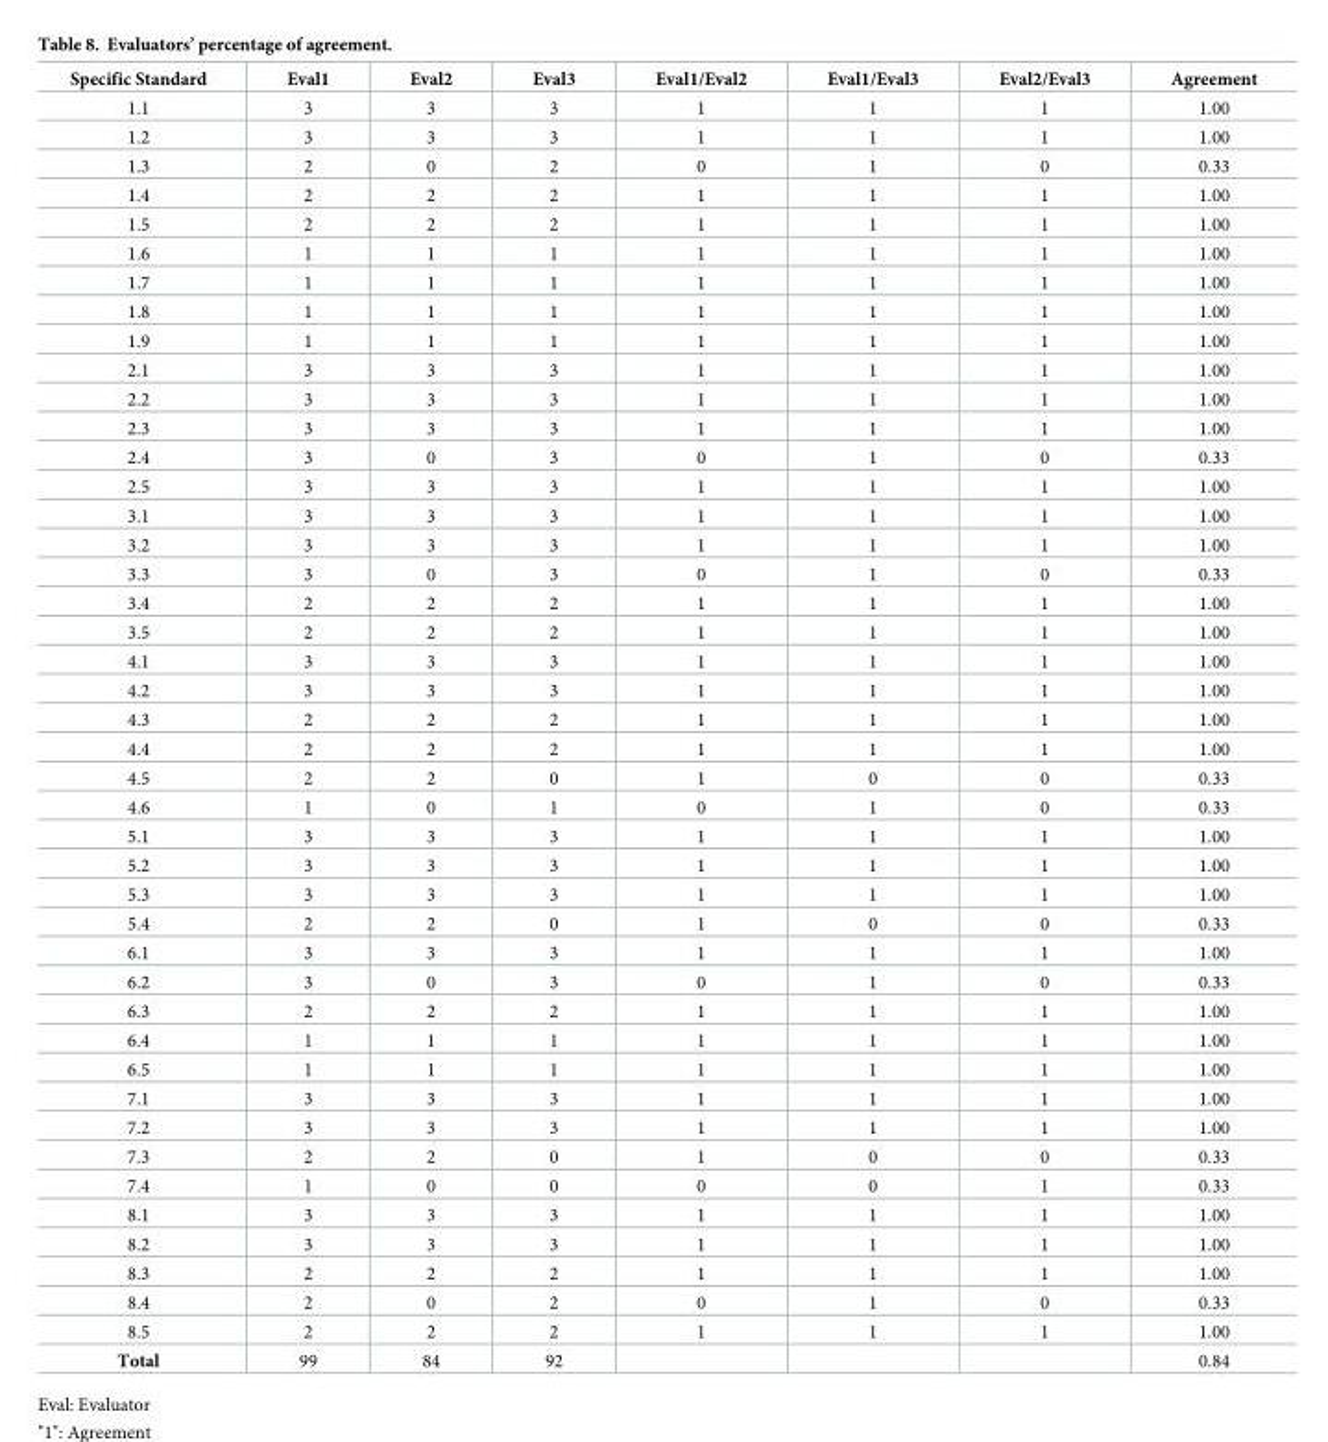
<table><thead><tr><td>Specific Standard</td><td>Eval1</td><td>Eval2</td><td>Eval3</td><td>Eval1/Eval2</td><td>Eval1/Eval3</td><td>Eval2/Eval3</td><td>Agreement</td></tr></thead><tbody><tr><td>1.1</td><td>3</td><td>3</td><td>3</td><td>1</td><td>1</td><td>1</td><td>1.00</td></tr><tr><td>1.2</td><td>3</td><td>3</td><td>3</td><td>1</td><td>1</td><td>1</td><td>1.00</td></tr><tr><td>1.3</td><td>2</td><td>0</td><td>2</td><td>0</td><td>1</td><td>0</td><td>0.33</td></tr><tr><td>1.4</td><td>2</td><td>2</td><td>2</td><td>1</td><td>1</td><td>1</td><td>1.00</td></tr><tr><td>1.5</td><td>2</td><td>2</td><td>2</td><td>1</td><td>1</td><td>1</td><td>1.00</td></tr><tr><td>1.6</td><td>1</td><td>1</td><td>1</td><td>1</td><td>1</td><td>1</td><td>1.00</td></tr><tr><td>1.7</td><td>1</td><td>1</td><td>1</td><td>1</td><td>1</td><td>1</td><td>1.00</td></tr><tr><td>1.8</td><td>1</td><td>1</td><td>1</td><td>1</td><td>1</td><td>1</td><td>1.00</td></tr><tr><td>1.9</td><td>1</td><td>1</td><td>1</td><td>1</td><td>1</td><td>1</td><td>1.00</td></tr><tr><td>2.1</td><td>3</td><td>3</td><td>3</td><td>1</td><td>1</td><td>1</td><td>1.00</td></tr><tr><td>2.2</td><td>3</td><td>3</td><td>3</td><td>1</td><td>1</td><td>1</td><td>1.00</td></tr><tr><td>2.3</td><td>3</td><td>3</td><td>3</td><td>1</td><td>1</td><td>1</td><td>1.00</td></tr><tr><td>2.4</td><td>3</td><td>0</td><td>3</td><td>0</td><td>1</td><td>0</td><td>0.33</td></tr><tr><td>2.5</td><td>3</td><td>3</td><td>3</td><td>1</td><td>1</td><td>1</td><td>1.00</td></tr><tr><td>3.1</td><td>3</td><td>3</td><td>3</td><td>1</td><td>1</td><td>1</td><td>1.00</td></tr><tr><td>3.2</td><td>3</td><td>3</td><td>3</td><td>1</td><td>1</td><td>1</td><td>1.00</td></tr><tr><td>3.3</td><td>3</td><td>0</td><td>3</td><td>0</td><td>1</td><td>0</td><td>0.33</td></tr><tr><td>3.4</td><td>2</td><td>2</td><td>2</td><td>1</td><td>1</td><td>1</td><td>1.00</td></tr><tr><td>3.5</td><td>2</td><td>2</td><td>2</td><td>1</td><td>1</td><td>1</td><td>1.00</td></tr><tr><td>4.1</td><td>3</td><td>3</td><td>3</td><td>1</td><td>1</td><td>1</td><td>1.00</td></tr><tr><td>4.2</td><td>3</td><td>3</td><td>3</td><td>1</td><td>1</td><td>1</td><td>1.00</td></tr><tr><td>4.3</td><td>2</td><td>2</td><td>2</td><td>1</td><td>1</td><td>1</td><td>1.00</td></tr><tr><td>4.4</td><td>2</td><td>2</td><td>2</td><td>1</td><td>1</td><td>1</td><td>1.00</td></tr><tr><td>4.5</td><td>2</td><td>2</td><td>0</td><td>1</td><td>0</td><td>0</td><td>0.33</td></tr><tr><td>4.6</td><td>1</td><td>0</td><td>1</td><td>0</td><td>1</td><td>0</td><td>0.33</td></tr><tr><td>5.1</td><td>3</td><td>3</td><td>3</td><td>1</td><td>1</td><td>1</td><td>1.00</td></tr><tr><td>5.2</td><td>3</td><td>3</td><td>3</td><td>1</td><td>1</td><td>1</td><td>1.00</td></tr><tr><td>5.3</td><td>3</td><td>3</td><td>3</td><td>1</td><td>1</td><td>1</td><td>1.00</td></tr><tr><td>5.4</td><td>2</td><td>2</td><td>0</td><td>1</td><td>0</td><td>0</td><td>0.33</td></tr><tr><td>6.1</td><td>3</td><td>3</td><td>3</td><td>1</td><td>1</td><td>1</td><td>1.00</td></tr><tr><td>6.2</td><td>3</td><td>0</td><td>3</td><td>0</td><td>1</td><td>0</td><td>0.33</td></tr><tr><td>6.3</td><td>2</td><td>2</td><td>2</td><td>1</td><td>1</td><td>1</td><td>1.00</td></tr><tr><td>6.4</td><td>1</td><td>1</td><td>1</td><td>1</td><td>1</td><td>1</td><td>1.00</td></tr><tr><td>6.5</td><td>1</td><td>1</td><td>1</td><td>1</td><td>1</td><td>1</td><td>1.00</td></tr><tr><td>7.1</td><td>3</td><td>3</td><td>3</td><td>1</td><td>1</td><td>1</td><td>1.00</td></tr><tr><td>7.2</td><td>3</td><td>3</td><td>3</td><td>1</td><td>1</td><td>1</td><td>1.00</td></tr><tr><td>7.3</td><td>2</td><td>2</td><td>0</td><td>1</td><td>0</td><td>0</td><td>0.33</td></tr><tr><td>7.4</td><td>1</td><td>0</td><td>0</td><td>0</td><td>0</td><td>1</td><td>0.33</td></tr><tr><td>8.1</td><td>3</td><td>3</td><td>3</td><td>1</td><td>1</td><td>1</td><td>1.00</td></tr><tr><td>8.2</td><td>3</td><td>3</td><td>3</td><td>1</td><td>1</td><td>1</td><td>1.00</td></tr><tr><td>8.3</td><td>2</td><td>2</td><td>2</td><td>1</td><td>1</td><td>1</td><td>1.00</td></tr><tr><td>8.4</td><td>2</td><td>0</td><td>2</td><td>0</td><td>1</td><td>0</td><td>0.33</td></tr><tr><td>8.5</td><td>2</td><td>2</td><td>2</td><td>1</td><td>1</td><td>1</td><td>1.00</td></tr><tr><td>Total</td><td>99</td><td>84</td><td>92</td><td></td><td></td><td></td><td>0.84</td></tr></tbody></table>